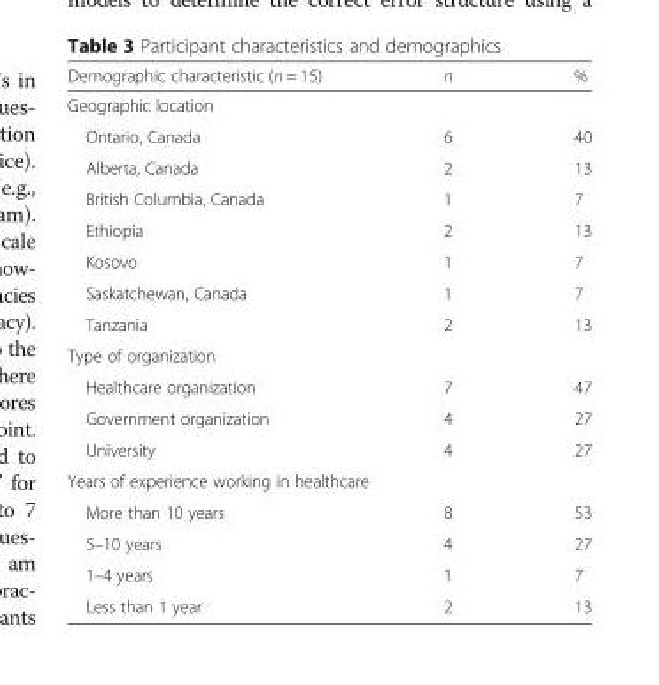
<table><thead><tr><td>Demographic characteristic (n = 15)</td><td>n</td><td>%</td></tr></thead><tbody><tr><td colspan="3">Geographic location</td></tr><tr><td>Ontario, Canada</td><td>6</td><td>40</td></tr><tr><td>Alberta, Canada</td><td>2</td><td>13</td></tr><tr><td>British Columbia, Canada</td><td>1</td><td>7</td></tr><tr><td>Ethiopia</td><td>2</td><td>13</td></tr><tr><td>Kosovo</td><td>1</td><td>7</td></tr><tr><td>Saskatchewan, Canada</td><td>1</td><td>7</td></tr><tr><td>Tanzania</td><td>2</td><td>13</td></tr><tr><td colspan="3">Type of organization</td></tr><tr><td>Healthcare organization</td><td>7</td><td>47</td></tr><tr><td>Government organization</td><td>4</td><td>27</td></tr><tr><td>University</td><td>4</td><td>27</td></tr><tr><td colspan="3">Years of experience working in healthcare</td></tr><tr><td>More than 10 years</td><td>8</td><td>53</td></tr><tr><td>5–10 years</td><td>4</td><td>27</td></tr><tr><td>1–4 years</td><td>1</td><td>7</td></tr><tr><td>Less than 1 year</td><td>2</td><td>13</td></tr></tbody></table>